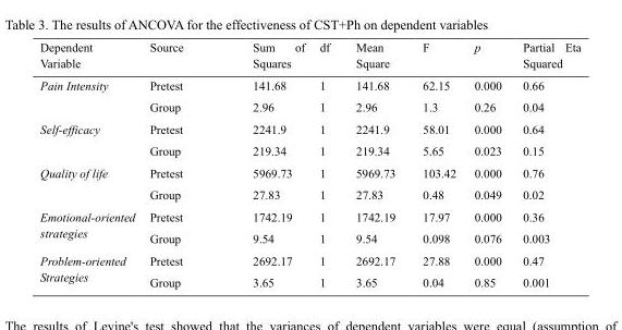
<table><thead><tr><td>Dependent Variable</td><td>Source</td><td>Sum of Squares</td><td>df</td><td>Mean Square</td><td>F</td><td>p</td><td>Partial Eta Squared</td></tr></thead><tbody><tr><td>Pain Intensity</td><td>Pretest Group</td><td>141.68 2.96</td><td>1 1</td><td>141.68 2.96</td><td>62.15 1.3</td><td>0.000 0.26</td><td>0.66 0.04</td></tr><tr><td>Self-efficacy</td><td>Pretest Group</td><td>2241.9 219.34</td><td>1 1</td><td>2241.9 219.34</td><td>58.01 5.65</td><td>0.000 0.023</td><td>0.64 0.15</td></tr><tr><td>Quality of life</td><td>Pretest Group</td><td>5969.73 27.83</td><td>1 1</td><td>5969.73 27.83</td><td>103.42 0.48</td><td>0.000 0.049</td><td>0.76 0.02</td></tr><tr><td>Emotional-oriented strategies</td><td>Pretest Group</td><td>1742.19 9.54</td><td>1 1</td><td>1742.19 9.54</td><td>17.97 0.098</td><td>0.000 0.076</td><td>0.36 0.003</td></tr><tr><td>Problem-oriented Strategies</td><td>Pretest Group</td><td>2692.17 3.65</td><td>1 1</td><td>2692.17 3.65</td><td>27.88 0.04</td><td>0.000 0.85</td><td>0.47 0.001</td></tr></tbody></table>